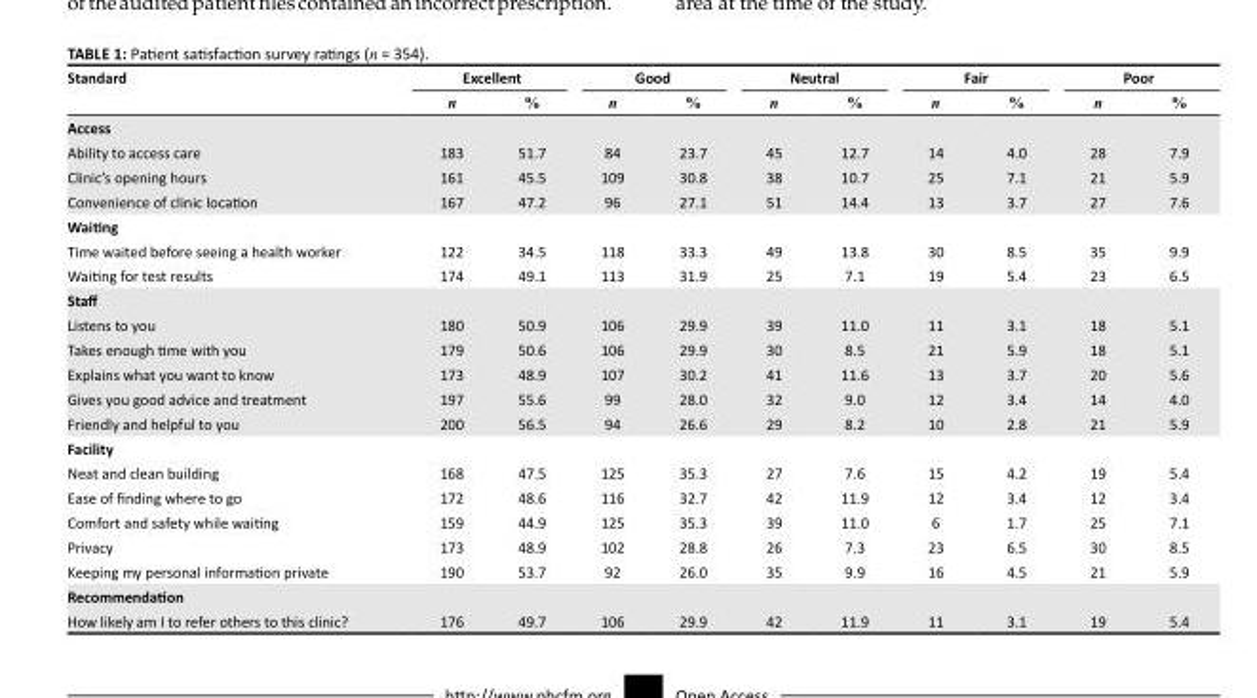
<table><thead><tr><td rowspan="2">Standard</td><td colspan="2">Excellent</td><td colspan="2">Good</td><td colspan="2">Neutral</td><td colspan="2">Fair</td><td colspan="2">Poor</td></tr><tr><td>n</td><td>%</td><td>n</td><td>%</td><td>n</td><td>%</td><td>n</td><td>%</td><td>n</td><td>%</td></tr></thead><tbody><tr><td colspan="11">Access</td></tr><tr><td>Ability to access care</td><td>183</td><td>51.7</td><td>84</td><td>23.7</td><td>45</td><td>12.7</td><td>14</td><td>4.0</td><td>28</td><td>7.9</td></tr><tr><td>Clinic’s opening hours</td><td>161</td><td>45.5</td><td>109</td><td>30.8</td><td>38</td><td>10.7</td><td>25</td><td>7.1</td><td>21</td><td>5.9</td></tr><tr><td>Convenience of clinic location</td><td>167</td><td>47.2</td><td>96</td><td>27.1</td><td>51</td><td>14.4</td><td>13</td><td>3.7</td><td>27</td><td>7.6</td></tr><tr><td colspan="11">Waiting</td></tr><tr><td>Time waited before seeing a health worker</td><td>122</td><td>34.5</td><td>118</td><td>33.3</td><td>49</td><td>13.8</td><td>30</td><td>8.5</td><td>35</td><td>9.9</td></tr><tr><td>Waiting for test results</td><td>174</td><td>49.1</td><td>113</td><td>31.9</td><td>25</td><td>7.1</td><td>19</td><td>5.4</td><td>23</td><td>6.5</td></tr><tr><td colspan="11">Staff</td></tr><tr><td>Listens to you</td><td>180</td><td>50.9</td><td>106</td><td>29.9</td><td>39</td><td>11.0</td><td>11</td><td>3.1</td><td>18</td><td>5.1</td></tr><tr><td>Takes enough time with you</td><td>179</td><td>50.6</td><td>106</td><td>29.9</td><td>30</td><td>8.5</td><td>21</td><td>5.9</td><td>18</td><td>5.1</td></tr><tr><td>Explains what you want to know</td><td>173</td><td>48.9</td><td>107</td><td>30.2</td><td>41</td><td>11.6</td><td>13</td><td>3.7</td><td>20</td><td>5.6</td></tr><tr><td>Gives you good advice and treatment</td><td>197</td><td>55.6</td><td>99</td><td>28.0</td><td>32</td><td>9.0</td><td>12</td><td>3.4</td><td>14</td><td>4.0</td></tr><tr><td>Friendly and helpful to you</td><td>200</td><td>56.5</td><td>94</td><td>26.6</td><td>29</td><td>8.2</td><td>10</td><td>2.8</td><td>21</td><td>5.9</td></tr><tr><td colspan="11">Facility</td></tr><tr><td>Neat and clean building</td><td>168</td><td>47.5</td><td>125</td><td>35.3</td><td>27</td><td>7.6</td><td>15</td><td>4.2</td><td>19</td><td>5.4</td></tr><tr><td>Ease of finding where to go</td><td>172</td><td>48.6</td><td>116</td><td>32.7</td><td>42</td><td>11.9</td><td>12</td><td>3.4</td><td>12</td><td>3.4</td></tr><tr><td>Comfort and safety while waiting</td><td>159</td><td>44.9</td><td>125</td><td>35.3</td><td>39</td><td>11.0</td><td>6</td><td>1.7</td><td>25</td><td>7.1</td></tr><tr><td>Privacy</td><td>173</td><td>48.9</td><td>102</td><td>28.8</td><td>26</td><td>7.3</td><td>23</td><td>6.5</td><td>30</td><td>8.5</td></tr><tr><td>Keeping my personal information private</td><td>190</td><td>53.7</td><td>92</td><td>26.0</td><td>35</td><td>9.9</td><td>16</td><td>4.5</td><td>21</td><td>5.9</td></tr><tr><td colspan="11">Recommendation</td></tr><tr><td>How likely am I to refer others to this clinic?</td><td>176</td><td>49.7</td><td>106</td><td>29.9</td><td>42</td><td>11.9</td><td>11</td><td>3.1</td><td>19</td><td>5.4</td></tr></tbody></table>